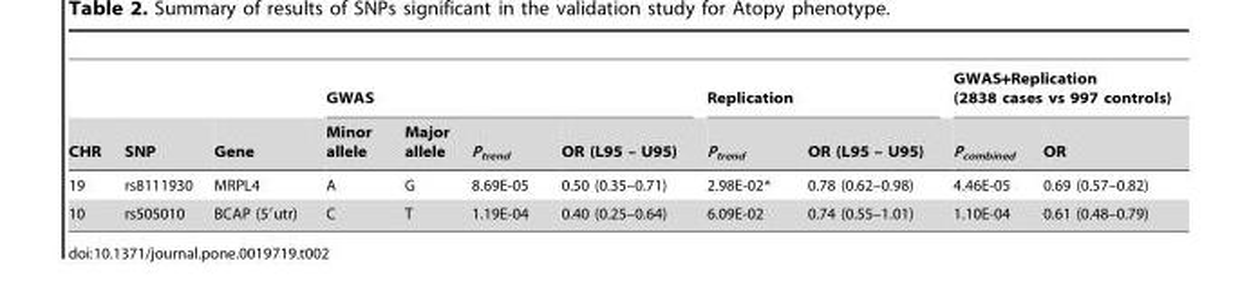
<table><thead><tr><td rowspan="2">CHR</td><td rowspan="2">SNP</td><td rowspan="2">Gene</td><td colspan="4">GWAS</td><td colspan="2">Replication</td><td colspan="2">GWAS+Replication (2838 cases vs 997 controls)</td></tr><tr><td>Minor allele</td><td>Major allele</td><td>P<sub>trend</sub></td><td>OR (L95 – U95)</td><td>P<sub>trend</sub></td><td>OR (L95 – U95)</td><td>P<sub>combined</sub></td><td>OR</td></tr></thead><tbody><tr><td>19</td><td>rs8111930</td><td>MRPL4</td><td>A</td><td>G</td><td>8.69E-05</td><td>0.50 (0.35–0.71)</td><td>2.98E-02*</td><td>0.78 (0.62–0.98)</td><td>4.46E-05</td><td>0.69 (0.57–0.82)</td></tr><tr><td>10</td><td>rs505010</td><td>BCAP (5′utr)</td><td>C</td><td>T</td><td>1.19E-04</td><td>0.40 (0.25–0.64)</td><td>6.09E-02</td><td>0.74 (0.55–1.01)</td><td>1.10E-04</td><td>0.61 (0.48–0.79)</td></tr></tbody></table>